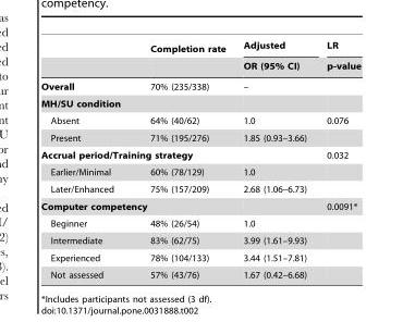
<table><thead><tr><td rowspan="2"></td><td rowspan="2">Completion rate</td><td rowspan="2">Adjusted OR (95% CI)</td><td rowspan="2">LR p-value</td></tr><tr></tr></thead><tbody><tr><td>Overall</td><td>70% (235/338)</td><td>–</td><td></td></tr><tr><td colspan="4">MH/SU condition</td></tr><tr><td>Absent</td><td>64% (40/62)</td><td>1.0</td><td>0.076</td></tr><tr><td>Present</td><td>71% (195/276)</td><td>1.85 (0.93–3.66)</td><td></td></tr><tr><td colspan="2">Accrual period/Training strategy</td><td></td><td>0.032</td></tr><tr><td>Earlier/Minimal</td><td>60% (78/129)</td><td>1.0</td><td></td></tr><tr><td>Later/Enhanced</td><td>75% (157/209)</td><td>2.68 (1.06–6.73)</td><td></td></tr><tr><td colspan="2">Computer competency</td><td></td><td>0.0091*</td></tr><tr><td>Beginner</td><td>48% (26/54)</td><td>1.0</td><td></td></tr><tr><td>Intermediate</td><td>83% (62/75)</td><td>3.99 (1.61–9.93)</td><td></td></tr><tr><td>Experienced</td><td>78% (104/133)</td><td>3.44 (1.51–7.81)</td><td></td></tr><tr><td>Not assessed</td><td>57% (43/76)</td><td>1.67 (0.42–6.68)</td><td></td></tr></tbody></table>